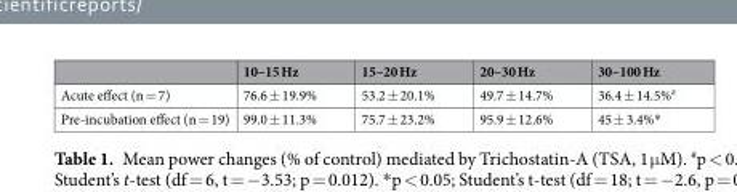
<table><thead><tr><td></td><td>10–15 Hz</td><td>15–20 Hz</td><td>20–30 Hz</td><td>30–100 Hz</td></tr></thead><tbody><tr><td>Acute effect (n = 7)</td><td>76.6 ± 19.9%</td><td>53.2 ± 20.1%</td><td>49.7 ± 14.7%</td><td>36.4 ± 14.5%<sup>#</sup></td></tr><tr><td>Pre-incubation effect (n = 19)</td><td>99.0 ± 11.3%</td><td>75.7 ± 23.2%</td><td>95.9 ± 12.6%</td><td>45 ± 3.4%*</td></tr></tbody></table>